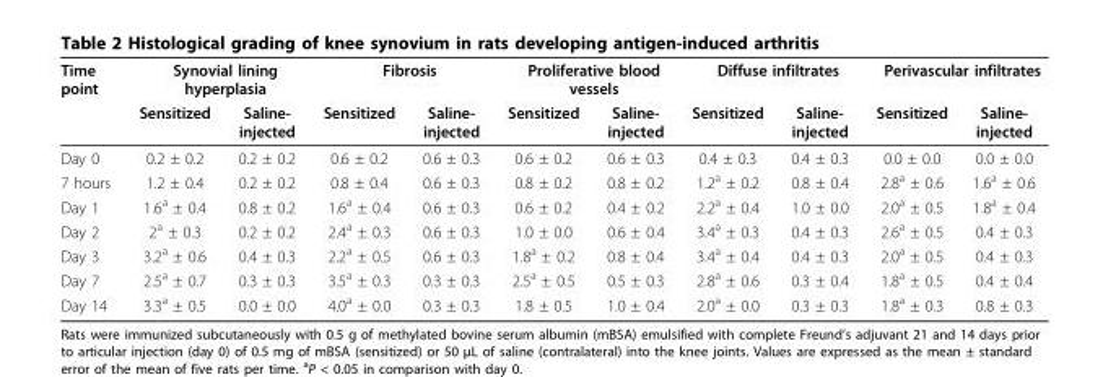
<table><thead><tr><td rowspan="2">Time point</td><td colspan="2">Synovial lining hyperplasia</td><td colspan="2">Fibrosis</td><td colspan="2">Proliferative blood vessels</td><td colspan="2">Diffuse infiltrates</td><td colspan="2">Perivascular infiltrates</td></tr><tr><td>Sensitized</td><td>Saline- injected</td><td>Sensitized</td><td>Saline- injected</td><td>Sensitized</td><td>Saline- injected</td><td>Sensitized</td><td>Saline- injected</td><td>Sensitized</td><td>Saline- injected</td></tr></thead><tbody><tr><td>Day 0</td><td>0.2 ± 0.2</td><td>0.2 ± 0.2</td><td>0.6 ± 0.2</td><td>0.6 ± 0.3</td><td>0.6 ± 0.2</td><td>0.6 ± 0.3</td><td>0.4 ± 0.3</td><td>0.4 ± 0.3</td><td>0.0 ± 0.0</td><td>0.0 ± 0.0</td></tr><tr><td>7 hours</td><td>1.2 ± 0.4</td><td>0.2 ± 0.2</td><td>0.8 ± 0.4</td><td>0.6 ± 0.3</td><td>0.8 ± 0.2</td><td>0.8 ± 0.2</td><td>1.2<sup>a</sup> ± 0.2</td><td>0.8 ± 0.4</td><td>2.8<sup>a</sup> ± 0.6</td><td>1.6<sup>a</sup> ± 0.6</td></tr><tr><td>Day 1</td><td>1.6<sup>a</sup> ± 0.4</td><td>0.8 ± 0.2</td><td>1.6<sup>a</sup> ± 0.4</td><td>0.6 ± 0.3</td><td>0.6 ± 0.2</td><td>0.4 ± 0.2</td><td>2.2<sup>a</sup> ± 0.4</td><td>1.0 ± 0.0</td><td>2.0<sup>a</sup> ± 0.5</td><td>1.8<sup>a</sup> ± 0.4</td></tr><tr><td>Day 2</td><td>2<sup>a</sup> ± 0.3</td><td>0.2 ± 0.2</td><td>2.4<sup>a</sup> ± 0.3</td><td>0.6 ± 0.3</td><td>1.0 ± 0.0</td><td>0.6 ± 0.4</td><td>3.4<sup>a</sup> ± 0.3</td><td>0.4 ± 0.3</td><td>2.6<sup>a</sup> ± 0.5</td><td>0.4 ± 0.3</td></tr><tr><td>Day 3</td><td>3.2<sup>a</sup> ± 0.6</td><td>0.4 ± 0.3</td><td>2.2<sup>a</sup> ± 0.5</td><td>0.6 ± 0.3</td><td>1.8<sup>a</sup> ± 0.2</td><td>0.8 ± 0.4</td><td>3.4<sup>a</sup> ± 0.4</td><td>0.4 ± 0.3</td><td>2.0<sup>a</sup> ± 0.5</td><td>0.4 ± 0.3</td></tr><tr><td>Day 7</td><td>2.5<sup>a</sup> ± 0.7</td><td>0.3 ± 0.3</td><td>3.5<sup>a</sup> ± 0.3</td><td>0.3 ± 0.3</td><td>2.5<sup>a</sup> ± 0.5</td><td>0.5 ± 0.3</td><td>2.8<sup>a</sup> ± 0.6</td><td>0.3 ± 0.4</td><td>1.8<sup>a</sup> ± 0.5</td><td>0.4 ± 0.4</td></tr><tr><td>Day 14</td><td>3.3<sup>a</sup> ± 0.5</td><td>0.0 ± 0.0</td><td>4.0<sup>a</sup> ± 0.0</td><td>0.3 ± 0.3</td><td>1.8 ± 0.5</td><td>1.0 ± 0.4</td><td>2.0<sup>a</sup> ± 0.0</td><td>0.3 ± 0.3</td><td>1.8<sup>a</sup> ± 0.3</td><td>0.8 ± 0.3</td></tr></tbody></table>